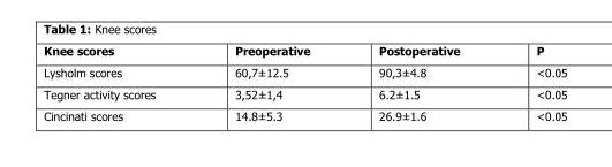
<table><thead><tr><td>Knee scores</td><td>Preoperative</td><td>Postoperative</td><td>P</td></tr></thead><tbody><tr><td>Lysholm scores</td><td>60,7±12.5</td><td>90,3±4.8</td><td>&lt;0.05</td></tr><tr><td>Tegner activity scores</td><td>3,52±1,4</td><td>6.2±1.5</td><td>&lt;0.05</td></tr><tr><td>Cincinati scores</td><td>14.8±5.3</td><td>26.9±1.6</td><td>&lt;0.05</td></tr></tbody></table>